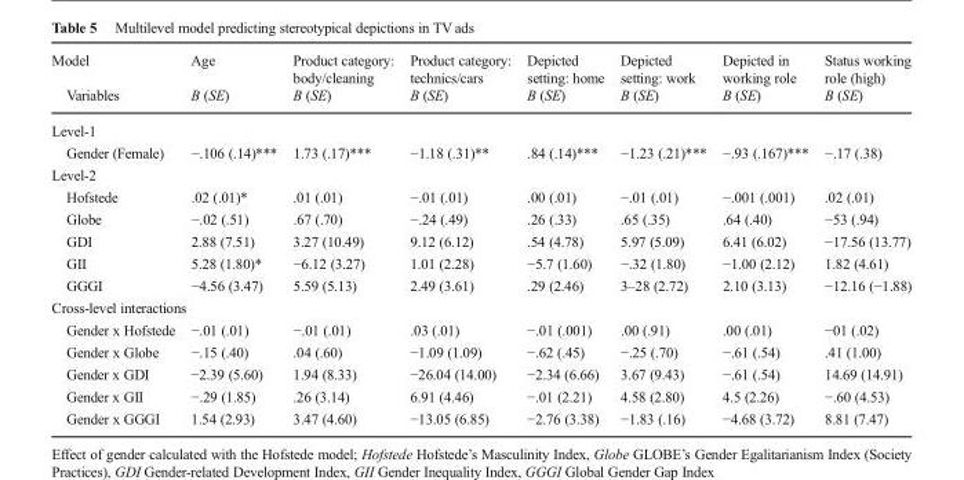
<table><thead><tr><td rowspan="2">Model Variables</td><td rowspan="2">Age B (SE)</td><td rowspan="2">Product category: body/cleaning B (SE)</td><td rowspan="2">Product category: technics/cars B (SE)</td><td rowspan="2">Depicted setting: home B (SE)</td><td rowspan="2">Depicted setting: work B (SE)</td><td rowspan="2">Depicted in working role B (SE)</td><td rowspan="2">Status working role (high) B (SE)</td></tr><tr></tr></thead><tbody><tr><td colspan="8">Level-1</td></tr><tr><td>Gender (Female)</td><td>−.106 (.14)***</td><td>1.73 (.17)***</td><td>−1.18 (.31)**</td><td>.84 (.14)***</td><td>−1.23 (.21)***</td><td>−.93 (.167)***</td><td>−.17 (.38)</td></tr><tr><td colspan="8">Level-2</td></tr><tr><td>Hofstede</td><td>.02 (.01)*</td><td>.01 (.01)</td><td>−.01 (.01)</td><td>.00 (.01)</td><td>−.01 (.01)</td><td>−.001 (.001)</td><td>.02 (.01)</td></tr><tr><td>Globe</td><td>−.02 (.51)</td><td>.67 (.70)</td><td>−.24 (.49)</td><td>.26 (.33)</td><td>.65 (.35)</td><td>.64 (.40)</td><td>−53 (.94)</td></tr><tr><td>GDI</td><td>2.88 (7.51)</td><td>3.27 (10.49)</td><td>9.12 (6.12)</td><td>.54 (4.78)</td><td>5.97 (5.09)</td><td>6.41 (6.02)</td><td>−17.56 (13.77)</td></tr><tr><td>GII</td><td>5.28 (1.80)*</td><td>−6.12 (3.27)</td><td>1.01 (2.28)</td><td>−5.7 (1.60)</td><td>−.32 (1.80)</td><td>−1.00 (2.12)</td><td>1.82 (4.61)</td></tr><tr><td>GGGI</td><td>−4.56 (3.47)</td><td>5.59 (5.13)</td><td>2.49 (3.61)</td><td>.29 (2.46)</td><td>3–28 (2.72)</td><td>2.10 (3.13)</td><td>−12.16 (−1.88)</td></tr><tr><td colspan="8">Cross-level interactions</td></tr><tr><td>Gender x Hofstede</td><td>−.01 (.01)</td><td>−.01 (.01)</td><td>.03 (.01)</td><td>−.01 (.001)</td><td>.00 (.91)</td><td>.00 (.01)</td><td>−01 (.02)</td></tr><tr><td>Gender x Globe</td><td>−.15 (.40)</td><td>.04 (.60)</td><td>−1.09 (1.09)</td><td>−.62 (.45)</td><td>−.25 (.70)</td><td>−.61 (.54)</td><td>.41 (1.00)</td></tr><tr><td>Gender x GDI</td><td>−2.39 (5.60)</td><td>1.94 (8.33)</td><td>−26.04 (14.00)</td><td>−2.34 (6.66)</td><td>3.67 (9.43)</td><td>−.61 (.54)</td><td>14.69 (14.91)</td></tr><tr><td>Gender x GII</td><td>−.29 (1.85)</td><td>.26 (3.14)</td><td>6.91 (4.46)</td><td>−.01 (2.21)</td><td>4.58 (2.80)</td><td>4.5 (2.26)</td><td>−.60 (4.53)</td></tr><tr><td>Gender x GGGI</td><td>1.54 (2.93)</td><td>3.47 (4.60)</td><td>−13.05 (6.85)</td><td>−2.76 (3.38)</td><td>−1.83 (.16)</td><td>−4.68 (3.72)</td><td>8.81 (7.47)</td></tr></tbody></table>